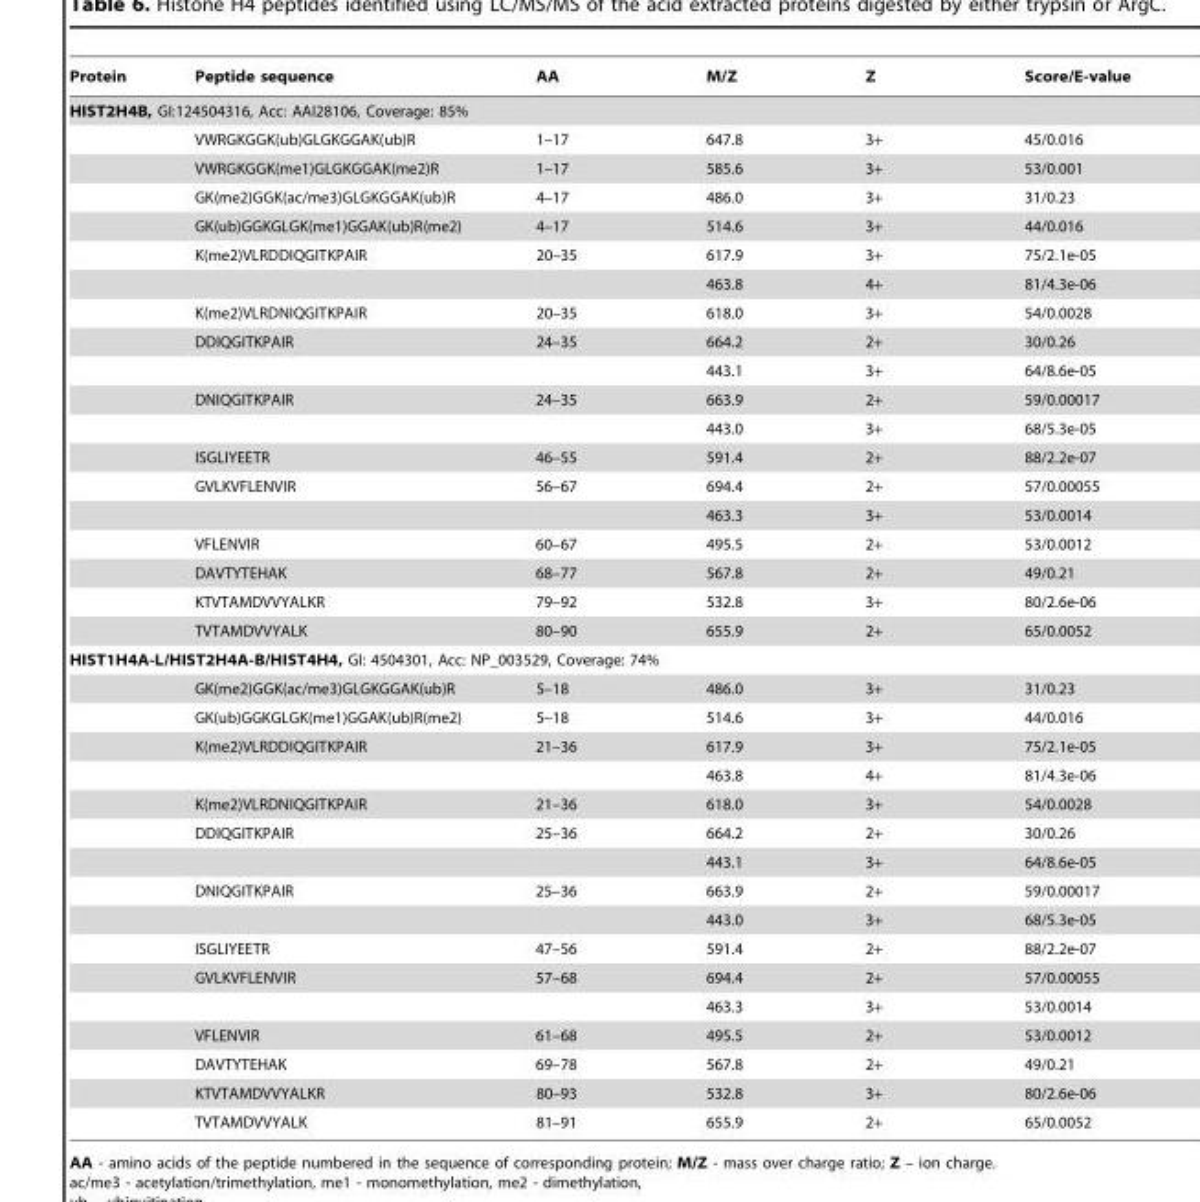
<table><thead><tr><td>Protein</td><td>Peptide sequence</td><td>AA</td><td>M/Z</td><td>Z</td><td>Score/E-value</td></tr></thead><tbody><tr><td colspan="6">HIST2H4B, GI:124504316, Acc: AAI28106, Coverage: 85%</td></tr><tr><td></td><td>VWRGKGGK(ub)GLGKGGAK(ub)R</td><td>1–17</td><td>647.8</td><td>3+</td><td>45/0.016</td></tr><tr><td></td><td>VWRGKGGK(me1)GLGKGGAK(me2)R</td><td>1–17</td><td>585.6</td><td>3+</td><td>53/0.001</td></tr><tr><td></td><td>GK(me2)GGK(ac/me3)GLGKGGAK(ub)R</td><td>4–17</td><td>486.0</td><td>3+</td><td>31/0.23</td></tr><tr><td></td><td>GK(ub)GGKGLGK(me1)GGAK(ub)R(me2)</td><td>4–17</td><td>514.6</td><td>3+</td><td>44/0.016</td></tr><tr><td></td><td>K(me2)VLRDDIQGITKPAIR</td><td>20–35</td><td>617.9</td><td>3+</td><td>75/2.1e-05</td></tr><tr><td></td><td></td><td></td><td>463.8</td><td>4+</td><td>81/4.3e-06</td></tr><tr><td></td><td>K(me2)VLRDNIQGITKPAIR</td><td>20–35</td><td>618.0</td><td>3+</td><td>54/0.0028</td></tr><tr><td></td><td>DDIQGITKPAIR</td><td>24–35</td><td>664.2</td><td>2+</td><td>30/0.26</td></tr><tr><td></td><td></td><td></td><td>443.1</td><td>3+</td><td>64/8.6e-05</td></tr><tr><td></td><td>DNIQGITKPAIR</td><td>24–35</td><td>663.9</td><td>2+</td><td>59/0.00017</td></tr><tr><td></td><td></td><td></td><td>443.0</td><td>3+</td><td>68/5.3e-05</td></tr><tr><td></td><td>ISGLIYEETR</td><td>46–55</td><td>591.4</td><td>2+</td><td>88/2.2e-07</td></tr><tr><td></td><td>GVLKVFLENVIR</td><td>56–67</td><td>694.4</td><td>2+</td><td>57/0.00055</td></tr><tr><td></td><td></td><td></td><td>463.3</td><td>3+</td><td>53/0.0014</td></tr><tr><td></td><td>VFLENVIR</td><td>60–67</td><td>495.5</td><td>2+</td><td>53/0.0012</td></tr><tr><td></td><td>DAVTYTEHAK</td><td>68–77</td><td>567.8</td><td>2+</td><td>49/0.21</td></tr><tr><td></td><td>KTVTAMDVVYALKR</td><td>79–92</td><td>532.8</td><td>3+</td><td>80/2.6e-06</td></tr><tr><td></td><td>TVTAMDVVYALK</td><td>80–90</td><td>655.9</td><td>2+</td><td>65/0.0052</td></tr><tr><td colspan="6">HIST1H4A-L/HIST2H4A-B/HIST4H4, GI: 4504301, Acc: NP_003529, Coverage: 74%</td></tr><tr><td></td><td>GK(me2)GGK(ac/me3)GLGKGGAK(ub)R</td><td>5–18</td><td>486.0</td><td>3+</td><td>31/0.23</td></tr><tr><td></td><td>GK(ub)GGKGLGK(me1)GGAK(ub)R(me2)</td><td>5–18</td><td>514.6</td><td>3+</td><td>44/0.016</td></tr><tr><td></td><td>K(me2)VLRDDIQGITKPAIR</td><td>21–36</td><td>617.9</td><td>3+</td><td>75/2.1e-05</td></tr><tr><td></td><td></td><td></td><td>463.8</td><td>4+</td><td>81/4.3e-06</td></tr><tr><td></td><td>K(me2)VLRDNIQGITKPAIR</td><td>21–36</td><td>618.0</td><td>3+</td><td>54/0.0028</td></tr><tr><td></td><td>DDIQGITKPAIR</td><td>25–36</td><td>664.2</td><td>2+</td><td>30/0.26</td></tr><tr><td></td><td></td><td></td><td>443.1</td><td>3+</td><td>64/8.6e-05</td></tr><tr><td></td><td>DNIQGITKPAIR</td><td>25–36</td><td>663.9</td><td>2+</td><td>59/0.00017</td></tr><tr><td></td><td></td><td></td><td>443.0</td><td>3+</td><td>68/5.3e-05</td></tr><tr><td></td><td>ISGLIYEETR</td><td>47–56</td><td>591.4</td><td>2+</td><td>88/2.2e-07</td></tr><tr><td></td><td>GVLKVFLENVIR</td><td>57–68</td><td>694.4</td><td>2+</td><td>57/0.00055</td></tr><tr><td></td><td></td><td></td><td>463.3</td><td>3+</td><td>53/0.0014</td></tr><tr><td></td><td>VFLENVIR</td><td>61–68</td><td>495.5</td><td>2+</td><td>53/0.0012</td></tr><tr><td></td><td>DAVTYTEHAK</td><td>69–78</td><td>567.8</td><td>2+</td><td>49/0.21</td></tr><tr><td></td><td>KTVTAMDVVYALKR</td><td>80–93</td><td>532.8</td><td>3+</td><td>80/2.6e-06</td></tr><tr><td></td><td>TVTAMDVVYALK</td><td>81–91</td><td>655.9</td><td>2+</td><td>65/0.0052</td></tr></tbody></table>